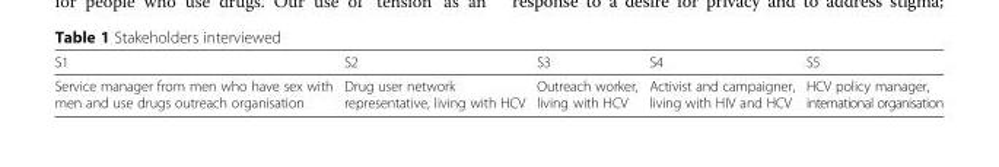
<table><thead><tr><td>S1</td><td>S2</td><td>S3</td><td>S4</td><td>S5</td></tr></thead><tbody><tr><td>Service manager from men who have sex with men and use drugs outreach organisation</td><td>Drug user network representative, living with HCV</td><td>Outreach worker, living with HCV</td><td>Activist and campaigner, living with HIV and HCV</td><td>HCV policy manager, international organisation</td></tr></tbody></table>